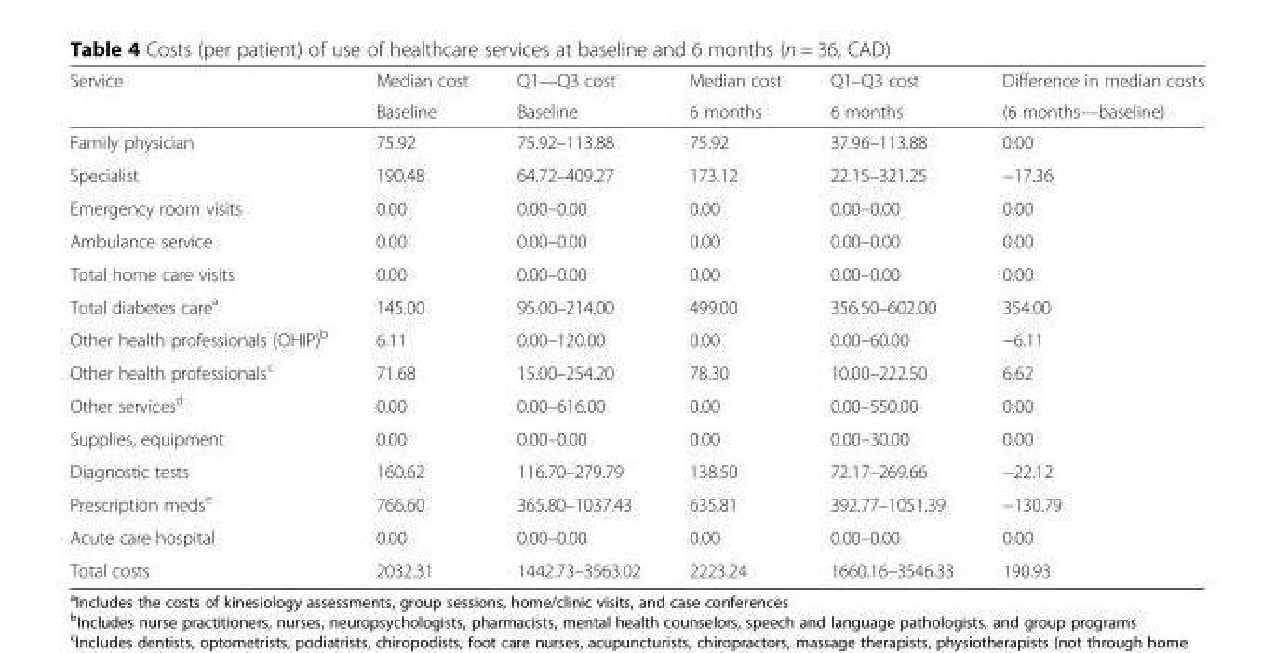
<table><thead><tr><td rowspan="2">Service</td><td rowspan="2">Median cost Baseline</td><td rowspan="2">Q1—Q3 cost Baseline</td><td rowspan="2">Median cost 6 months</td><td rowspan="2">Q1–Q3 cost 6 months</td><td rowspan="2">Difference in median costs (6 months—baseline)</td></tr><tr></tr></thead><tbody><tr><td>Family physician</td><td>75.92</td><td>75.92–113.88</td><td>75.92</td><td>37.96–113.88</td><td>0.00</td></tr><tr><td>Specialist</td><td>190.48</td><td>64.72–409.27</td><td>173.12</td><td>22.15–321.25</td><td>−17.36</td></tr><tr><td>Emergency room visits</td><td>0.00</td><td>0.00–0.00</td><td>0.00</td><td>0.00–0.00</td><td>0.00</td></tr><tr><td>Ambulance service</td><td>0.00</td><td>0.00–0.00</td><td>0.00</td><td>0.00–0.00</td><td>0.00</td></tr><tr><td>Total home care visits</td><td>0.00</td><td>0.00–0.00</td><td>0.00</td><td>0.00–0.00</td><td>0.00</td></tr><tr><td>Total diabetes care<sup>a</sup></td><td>145.00</td><td>95.00–214.00</td><td>499.00</td><td>356.50–602.00</td><td>354.00</td></tr><tr><td>Other health professionals (OHIP)<sup>b</sup></td><td>6.11</td><td>0.00–120.00</td><td>0.00</td><td>0.00–60.00</td><td>−6.11</td></tr><tr><td>Other health professionals<sup>c</sup></td><td>71.68</td><td>15.00–254.20</td><td>78.30</td><td>10.00–222.50</td><td>6.62</td></tr><tr><td>Other services<sup>d</sup></td><td>0.00</td><td>0.00–616.00</td><td>0.00</td><td>0.00–550.00</td><td>0.00</td></tr><tr><td>Supplies, equipment</td><td>0.00</td><td>0.00–0.00</td><td>0.00</td><td>0.00–30.00</td><td>0.00</td></tr><tr><td>Diagnostic tests</td><td>160.62</td><td>116.70–279.79</td><td>138.50</td><td>72.17–269.66</td><td>−22.12</td></tr><tr><td>Prescription meds<sup>e</sup></td><td>766.60</td><td>365.80–1037.43</td><td>635.81</td><td>392.77–1051.39</td><td>−130.79</td></tr><tr><td>Acute care hospital</td><td>0.00</td><td>0.00–0.00</td><td>0.00</td><td>0.00–0.00</td><td>0.00</td></tr><tr><td>Total costs</td><td>2032.31</td><td>1442.73–3563.02</td><td>2223.24</td><td>1660.16–3546.33</td><td>190.93</td></tr></tbody></table>